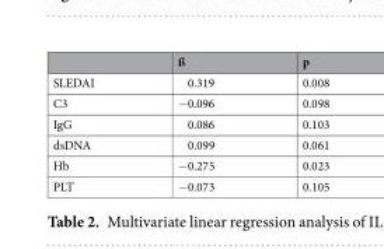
<table><thead><tr><td></td><td>ß</td><td>p</td></tr></thead><tbody><tr><td>SLEDAI</td><td>0.319</td><td>0.008</td></tr><tr><td>C3</td><td>−0.096</td><td>0.098</td></tr><tr><td>IgG</td><td>0.086</td><td>0.103</td></tr><tr><td>dsDNA</td><td>0.099</td><td>0.061</td></tr><tr><td>Hb</td><td>−0.275</td><td>0.023</td></tr><tr><td>PLT</td><td>−0.073</td><td>0.105</td></tr></tbody></table>